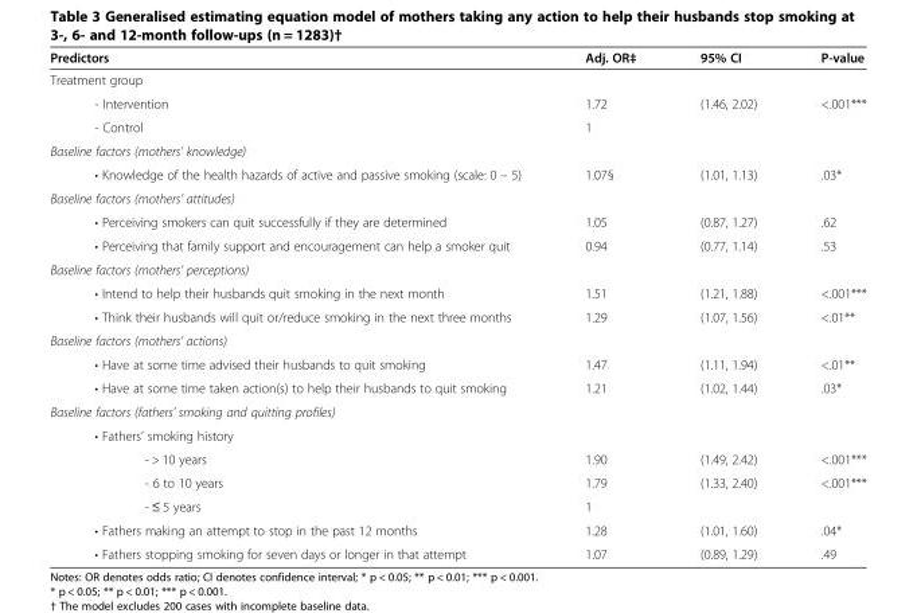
<table><thead><tr><td>Predictors</td><td>Adj. OR‡</td><td>95% CI</td><td>P-value</td></tr></thead><tbody><tr><td colspan="4">Treatment group</td></tr><tr><td>- Intervention</td><td>1.72</td><td>(1.46, 2.02)</td><td>&lt;.001***</td></tr><tr><td>- Control</td><td>1</td><td></td><td></td></tr><tr><td colspan="4">Baseline factors (mothers’ knowledge)</td></tr><tr><td>• Knowledge of the health hazards of active and passive smoking (scale: 0 – 5)</td><td>1.07§</td><td>(1.01, 1.13)</td><td>.03*</td></tr><tr><td colspan="4">Baseline factors (mothers’ attitudes)</td></tr><tr><td>• Perceiving smokers can quit successfully if they are determined</td><td>1.05</td><td>(0.87, 1.27)</td><td>.62</td></tr><tr><td>• Perceiving that family support and encouragement can help a smoker quit</td><td>0.94</td><td>(0.77, 1.14)</td><td>.53</td></tr><tr><td colspan="4">Baseline factors (mothers’ perceptions)</td></tr><tr><td>• Intend to help their husbands quit smoking in the next month</td><td>1.51</td><td>(1.21, 1.88)</td><td>&lt;.001***</td></tr><tr><td>• Think their husbands will quit or/reduce smoking in the next three months</td><td>1.29</td><td>(1.07, 1.56)</td><td>&lt;.01**</td></tr><tr><td colspan="4">Baseline factors (mothers’ actions)</td></tr><tr><td>• Have at some time advised their husbands to quit smoking</td><td>1.47</td><td>(1.11, 1.94)</td><td>&lt;.01**</td></tr><tr><td>• Have at some time taken action(s) to help their husbands to quit smoking</td><td>1.21</td><td>(1.02, 1.44)</td><td>.03*</td></tr><tr><td colspan="4">Baseline factors (fathers’ smoking and quitting profiles)</td></tr><tr><td colspan="4">• Fathers’ smoking history</td></tr><tr><td>- &gt; 10 years</td><td>1.90</td><td>(1.49, 2.42)</td><td>&lt;.001***</td></tr><tr><td>- 6 to 10 years</td><td>1.79</td><td>(1.33, 2.40)</td><td>&lt;.001***</td></tr><tr><td>- ≤ 5 years</td><td>1</td><td></td><td></td></tr><tr><td>• Fathers making an attempt to stop in the past 12 months</td><td>1.28</td><td>(1.01, 1.60)</td><td>.04*</td></tr><tr><td>• Fathers stopping smoking for seven days or longer in that attempt</td><td>1.07</td><td>(0.89, 1.29)</td><td>.49</td></tr></tbody></table>